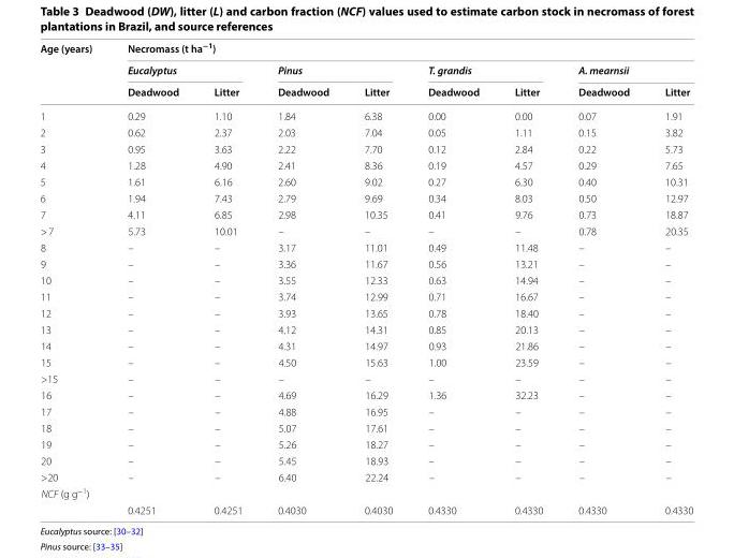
<table><thead><tr><td rowspan="3">Age (years)</td><td colspan="8">Necromass (t ha<sup>−1</sup>)</td></tr><tr><td colspan="2">Eucalyptus</td><td colspan="2">Pinus</td><td colspan="2">T. grandis</td><td colspan="2">A. mearnsii</td></tr><tr><td>Deadwood</td><td>Litter</td><td>Deadwood</td><td>Litter</td><td>Deadwood</td><td>Litter</td><td>Deadwood</td><td>Litter</td></tr></thead><tbody><tr><td>1</td><td>0.29</td><td>1.10</td><td>1.84</td><td>6.38</td><td>0.00</td><td>0.00</td><td>0.07</td><td>1.91</td></tr><tr><td>2</td><td>0.62</td><td>2.37</td><td>2.03</td><td>7.04</td><td>0.05</td><td>1.11</td><td>0.15</td><td>3.82</td></tr><tr><td>3</td><td>0.95</td><td>3.63</td><td>2.22</td><td>7.70</td><td>0.12</td><td>2.84</td><td>0.22</td><td>5.73</td></tr><tr><td>4</td><td>1.28</td><td>4.90</td><td>2.41</td><td>8.36</td><td>0.19</td><td>4.57</td><td>0.29</td><td>7.65</td></tr><tr><td>5</td><td>1.61</td><td>6.16</td><td>2.60</td><td>9.02</td><td>0.27</td><td>6.30</td><td>0.40</td><td>10.31</td></tr><tr><td>6</td><td>1.94</td><td>7.43</td><td>2.79</td><td>9.69</td><td>0.34</td><td>8.03</td><td>0.50</td><td>12.97</td></tr><tr><td>7</td><td>4.11</td><td>6.85</td><td>2.98</td><td>10.35</td><td>0.41</td><td>9.76</td><td>0.73</td><td>18.87</td></tr><tr><td>&gt; 7</td><td>5.73</td><td>10.01</td><td>–</td><td>–</td><td>–</td><td>–</td><td>0.78</td><td>20.35</td></tr><tr><td>8</td><td>–</td><td>–</td><td>3.17</td><td>11.01</td><td>0.49</td><td>11.48</td><td>–</td><td>–</td></tr><tr><td>9</td><td>–</td><td>–</td><td>3.36</td><td>11.67</td><td>0.56</td><td>13.21</td><td>–</td><td>–</td></tr><tr><td>10</td><td>–</td><td>–</td><td>3.55</td><td>12.33</td><td>0.63</td><td>14.94</td><td>–</td><td>–</td></tr><tr><td>11</td><td>–</td><td>–</td><td>3.74</td><td>12.99</td><td>0.71</td><td>16.67</td><td>–</td><td>–</td></tr><tr><td>12</td><td>–</td><td>–</td><td>3.93</td><td>13.65</td><td>0.78</td><td>18.40</td><td>–</td><td>–</td></tr><tr><td>13</td><td>–</td><td>–</td><td>4.12</td><td>14.31</td><td>0.85</td><td>20.13</td><td>–</td><td>–</td></tr><tr><td>14</td><td>–</td><td>–</td><td>4.31</td><td>14.97</td><td>0.93</td><td>21.86</td><td>–</td><td>–</td></tr><tr><td>15</td><td>–</td><td>–</td><td>4.50</td><td>15.63</td><td>1.00</td><td>23.59</td><td>–</td><td>–</td></tr><tr><td>&gt;15</td><td>–</td><td>–</td><td>–</td><td>–</td><td>–</td><td>–</td><td>–</td><td>–</td></tr><tr><td>16</td><td>–</td><td>–</td><td>4.69</td><td>16.29</td><td>1.36</td><td>32.23</td><td>–</td><td>–</td></tr><tr><td>17</td><td>–</td><td>–</td><td>4.88</td><td>16.95</td><td>–</td><td>–</td><td>–</td><td>–</td></tr><tr><td>18</td><td>–</td><td>–</td><td>5.07</td><td>17.61</td><td>–</td><td>–</td><td>–</td><td>–</td></tr><tr><td>19</td><td>–</td><td>–</td><td>5.26</td><td>18.27</td><td>–</td><td>–</td><td>–</td><td>–</td></tr><tr><td>20</td><td>–</td><td>–</td><td>5.45</td><td>18.93</td><td>–</td><td>–</td><td>–</td><td>–</td></tr><tr><td>&gt;20</td><td>–</td><td>–</td><td>6.40</td><td>22.24</td><td>–</td><td>–</td><td>–</td><td>–</td></tr><tr><td colspan="9">NCF (g g<sup>−1</sup>)</td></tr><tr><td></td><td>0.4251</td><td>0.4251</td><td>0.4030</td><td>0.4030</td><td>0.4330</td><td>0.4330</td><td>0.4330</td><td>0.4330</td></tr></tbody></table>